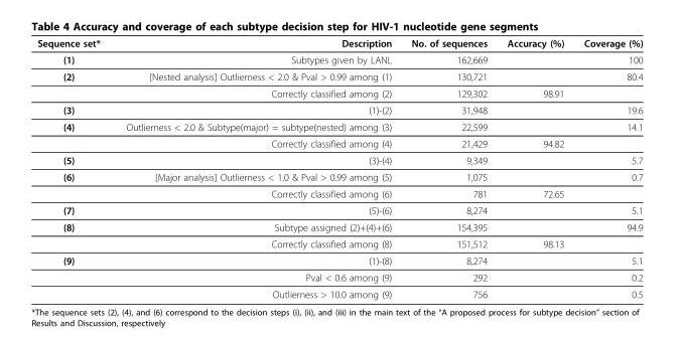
<table><thead><tr><td>Sequence set*</td><td>Description</td><td>No. of sequences</td><td>Accuracy (%)</td><td>Coverage (%)</td></tr></thead><tbody><tr><td>(1)</td><td>Subtypes given by LANL</td><td>162,669</td><td></td><td>100</td></tr><tr><td rowspan="2">(2)</td><td>[Nested analysis] Outlierness &lt; 2.0 &amp; Pval &gt; 0.99 among (1)</td><td>130,721</td><td></td><td>80.4</td></tr><tr><td>Correctly classified among (2)</td><td>129,302</td><td>98.91</td><td></td></tr><tr><td>(3)</td><td>(1)-(2)</td><td>31,948</td><td></td><td>19.6</td></tr><tr><td rowspan="2">(4)</td><td>Outlierness &lt; 2.0 &amp; Subtype(major) = subtype(nested) among (3)</td><td>22,599</td><td></td><td>14.1</td></tr><tr><td>Correctly classified among (4)</td><td>21,429</td><td>94.82</td><td></td></tr><tr><td>(5)</td><td>(3)-(4)</td><td>9,349</td><td></td><td>5.7</td></tr><tr><td rowspan="2">(6)</td><td>[Major analysis] Outlierness &lt; 1.0 &amp; Pval &gt; 0.99 among (5)</td><td>1,075</td><td></td><td>0.7</td></tr><tr><td>Correctly classified among (6)</td><td>781</td><td>72.65</td><td></td></tr><tr><td>(7)</td><td>(5)-(6)</td><td>8,274</td><td></td><td>5.1</td></tr><tr><td rowspan="2">(8)</td><td>Subtype assigned (2)+(4)+(6)</td><td>154,395</td><td></td><td>94.9</td></tr><tr><td>Correctly classified among (8)</td><td>151,512</td><td>98.13</td><td></td></tr><tr><td rowspan="3">(9)</td><td>(1)-(8)</td><td>8,274</td><td></td><td>5.1</td></tr><tr><td>Pval &lt; 0.6 among (9)</td><td>292</td><td></td><td>0.2</td></tr><tr><td>Outlierness &gt; 10.0 among (9)</td><td>756</td><td></td><td>0.5</td></tr></tbody></table>